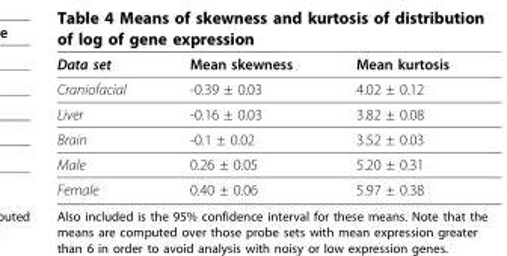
<table><thead><tr><td>Data set</td><td>Mean skewness</td><td>Mean kurtosis</td></tr></thead><tbody><tr><td>Craniofacial</td><td>-0.39 ± 0.03</td><td>4.02 ± 0.12</td></tr><tr><td>Liver</td><td>-0.16 ± 0.03</td><td>3.82 ± 0.08</td></tr><tr><td>Brain</td><td>-0.1 ± 0.02</td><td>3.52 ± 0.03</td></tr><tr><td>Male</td><td>0.26 ± 0.05</td><td>5.20 ± 0.31</td></tr><tr><td>Female</td><td>0.40 ± 0.06</td><td>5.97 ± 0.38</td></tr></tbody></table>